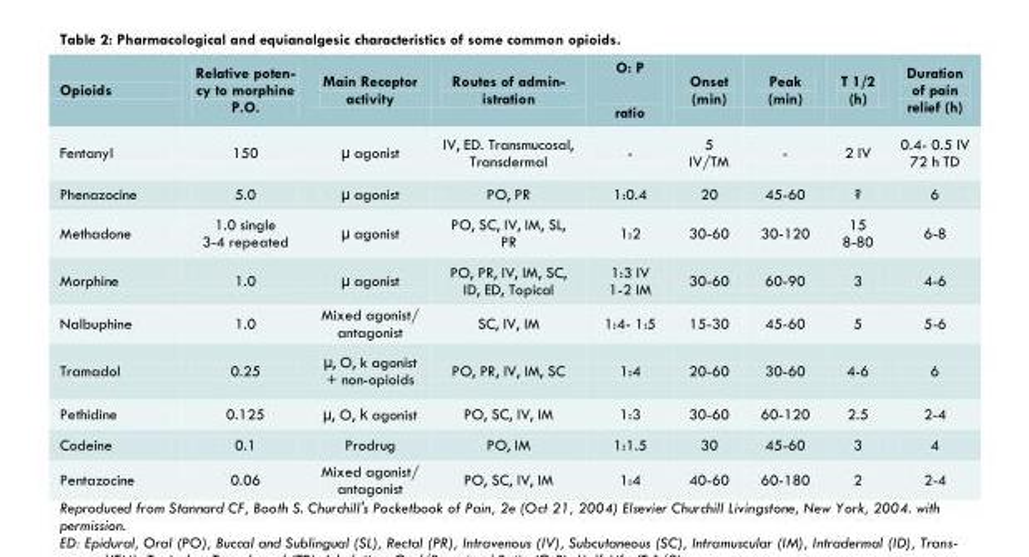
<table><thead><tr><td>Opioids</td><td>Relative poten- cy to morphine P.O.</td><td>Main Receptor activity</td><td>Routes of admin- istration</td><td>O: P ratio</td><td>Onset (min)</td><td>Peak (min)</td><td>T 1/2 (h)</td><td>Duration of pain relief (h)</td></tr></thead><tbody><tr><td>Fentanyl</td><td>150</td><td>µ agonist</td><td>IV, ED. Transmucosal, Transdermal</td><td>-</td><td>5 IV/TM</td><td>-</td><td>2 IV</td><td>0.4- 0.5 IV 72 h TD</td></tr><tr><td>Phenazocine</td><td>5.0</td><td>µ agonist</td><td>PO, PR</td><td>1:0.4</td><td>20</td><td>45-60</td><td>?</td><td>6</td></tr><tr><td>Methadone</td><td>1.0 single 3-4 repeated</td><td>µ agonist</td><td>PO, SC, IV, IM, SL, PR</td><td>1:2</td><td>30-60</td><td>30-120</td><td>15 8-80</td><td>6-8</td></tr><tr><td>Morphine</td><td>1.0</td><td>µ agonist</td><td>PO, PR, IV, IM, SC, ID, ED, Topical</td><td>1:3 IV 1-2 IM</td><td>30-60</td><td>60-90</td><td>3</td><td>4-6</td></tr><tr><td>Nalbuphine</td><td>1.0</td><td>Mixed agonist/ antagonist</td><td>SC, IV, IM</td><td>1:4- 1:5</td><td>15-30</td><td>45-60</td><td>5</td><td>5-6</td></tr><tr><td>Tramadol</td><td>0.25</td><td>µ, O, k agonist + non-opioids</td><td>PO, PR, IV, IM, SC</td><td>1:4</td><td>20-60</td><td>30-60</td><td>4-6</td><td>6</td></tr><tr><td>Pethidine</td><td>0.125</td><td>µ, O, k agonist</td><td>PO, SC, IV, IM</td><td>1:3</td><td>30-60</td><td>60-120</td><td>2.5</td><td>2-4</td></tr><tr><td>Codeine</td><td>0.1</td><td>Prodrug</td><td>PO, IM</td><td>1:1.5</td><td>30</td><td>45-60</td><td>3</td><td>4</td></tr><tr><td>Pentazocine</td><td>0.06</td><td>Mixed agonist/ antagonist</td><td>PO, SC, IV, IM</td><td>1:4</td><td>40-60</td><td>60-180</td><td>2</td><td>2-4</td></tr></tbody></table>